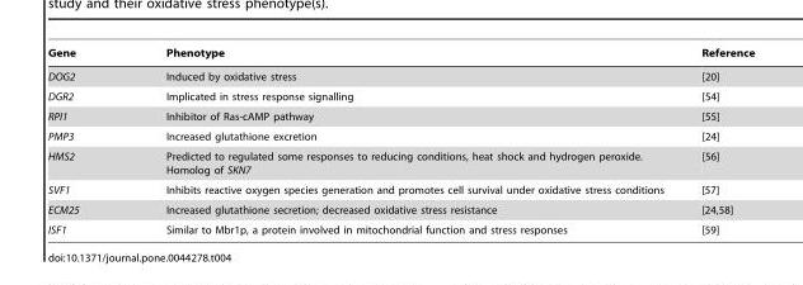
<table><thead><tr><td>Gene</td><td>Phenotype</td><td>Reference</td></tr></thead><tbody><tr><td>DOG2</td><td>Induced by oxidative stress</td><td>[20]</td></tr><tr><td>DGR2</td><td>Implicated in stress response signalling</td><td>[54]</td></tr><tr><td>RPI1</td><td>Inhibitor of Ras-cAMP pathway</td><td>[55]</td></tr><tr><td>PMP3</td><td>Increased glutathione excretion</td><td>[24]</td></tr><tr><td>HMS2</td><td>Predicted to regulated some responses to reducing conditions, heat shock and hydrogen peroxide. Homolog of SKN7</td><td>[56]</td></tr><tr><td>SVF1</td><td>Inhibits reactive oxygen species generation and promotes cell survival under oxidative stress conditions</td><td>[57]</td></tr><tr><td>ECM25</td><td>Increased glutathione secretion; decreased oxidative stress resistance</td><td>[24,58]</td></tr><tr><td>ISF1</td><td>Similar to Mbr1p, a protein involved in mitochondrial function and stress responses</td><td>[59]</td></tr></tbody></table>